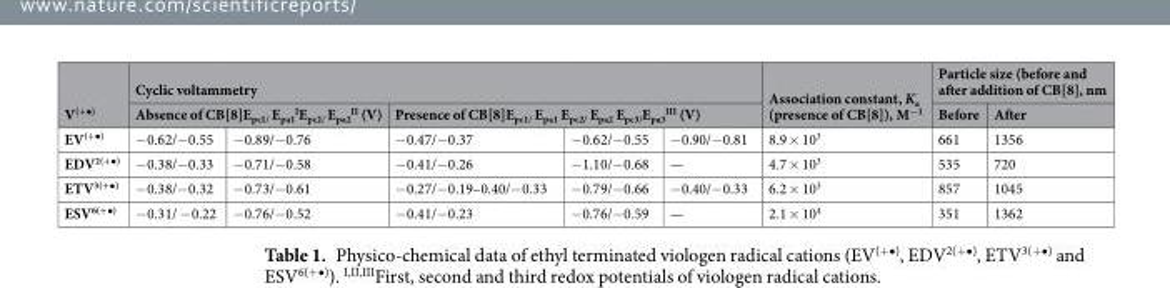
<table><thead><tr><td rowspan="3">V<sup>(+•)</sup> EV<sup>(+•)</sup></td><td colspan="5">Cyclic voltammetry</td><td rowspan="3">Association constant, K<sub>a</sub> (presence of CB[8]), M<sup>−1</sup> 8.9 × 10<sup>3</sup></td><td colspan="2">Particle size (before and after addition of CB[8], nm</td></tr><tr><td colspan="2">Absence of CB[8]E<sub>pc1/</sub> E<sub>pa1</sub> <sup>I</sup>E<sub>pc2/</sub> E<sub>pa2</sub> <sup>II</sup> (V)</td><td colspan="3">Presence of CB[8]E<sub>pc1/</sub> E<sub>pa1</sub> E<sub>pc2/</sub> E<sub>pa2</sub> E<sub>pc3/</sub>E<sub>pa3</sub> <sup>III</sup> (V)</td><td rowspan="2">Before 661</td><td rowspan="2">After 1356</td></tr><tr><td>−0.62/−0.55</td><td>−0.89/−0.76</td><td>−0.47/−0.37</td><td>−0.62/−0.55</td><td>−0.90/−0.81</td></tr></thead><tbody><tr><td>EDV<sup>2(+•)</sup></td><td>−0.38/−0.33</td><td>−0.71/−0.58</td><td>−0.41/−0.26</td><td>−1.10/−0.68</td><td>—</td><td>4.7 × 10<sup>3</sup></td><td>535</td><td>720</td></tr><tr><td>ETV<sup>3(+•)</sup></td><td>−0.38/−0.32</td><td>−0.73/−0.61</td><td>−0.27/−0.19–0.40/−0.33</td><td>−0.79/−0.66</td><td>−0.40/−0.33</td><td>6.2 × 10<sup>3</sup></td><td>857</td><td>1045</td></tr><tr><td>ESV<sup>6(+•)</sup></td><td>−0.31/ −0.22</td><td>−0.76/−0.52</td><td>−0.41/−0.23</td><td>−0.76/−0.59</td><td>—</td><td>2.1 × 10<sup>4</sup></td><td>351</td><td>1362</td></tr></tbody></table>